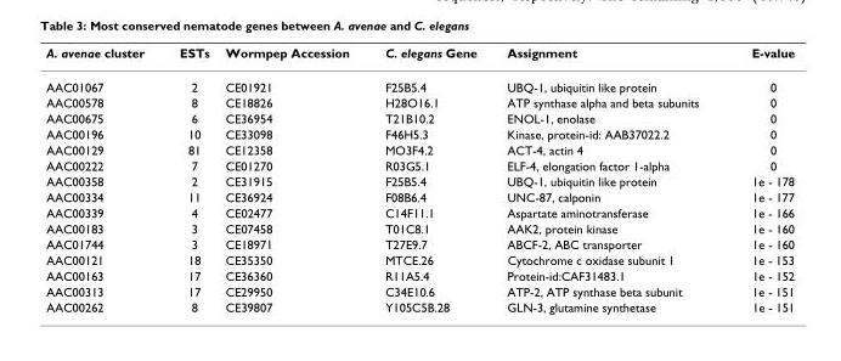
<table><thead><tr><td>A. avenae cluster</td><td>ESTs</td><td>Wormpep Accession</td><td>C. elegans Gene</td><td>Assignment</td><td>E-value</td></tr></thead><tbody><tr><td>AAC01067</td><td>2</td><td>CE01921</td><td>F25B5.4</td><td>UBQ-1, ubiquitin like protein</td><td>0</td></tr><tr><td>AAC00578</td><td>8</td><td>CE18826</td><td>H28O16.1</td><td>ATP synthase alpha and beta subunits</td><td>0</td></tr><tr><td>AAC00675</td><td>6</td><td>CE36954</td><td>T21B10.2</td><td>ENOL-1, enolase</td><td>0</td></tr><tr><td>AAC00196</td><td>10</td><td>CE33098</td><td>F46H5.3</td><td>Kinase, protein-id: AAB37022.2</td><td>0</td></tr><tr><td>AAC00129</td><td>81</td><td>CE12358</td><td>MO3F4.2</td><td>ACT-4, actin 4</td><td>0</td></tr><tr><td>AAC00222</td><td>7</td><td>CE01270</td><td>R03G5.1</td><td>ELF-4, elongation factor 1-alpha</td><td>0</td></tr><tr><td>AAC00358</td><td>2</td><td>CE31915</td><td>F25B5.4</td><td>UBQ-1, ubiquitin like protein</td><td>1e - 178</td></tr><tr><td>AAC00334</td><td>11</td><td>CE36924</td><td>F08B6.4</td><td>UNC-87, calponin</td><td>1e - 177</td></tr><tr><td>AAC00339</td><td>4</td><td>CE02477</td><td>C14F11.1</td><td>Aspartate aminotransferase</td><td>1e - 166</td></tr><tr><td>AAC00183</td><td>3</td><td>CE07458</td><td>T01C8.1</td><td>AAK2, protein kinase</td><td>1e - 160</td></tr><tr><td>AAC01744</td><td>3</td><td>CE18971</td><td>T27E9.7</td><td>ABCF-2, ABC transporter</td><td>1e - 160</td></tr><tr><td>AAC00121</td><td>18</td><td>CE35350</td><td>MTCE.26</td><td>Cytochrome c oxidase subunit 1</td><td>1e - 153</td></tr><tr><td>AAC00163</td><td>17</td><td>CE36360</td><td>R11A5.4</td><td>Protein-id:CAF31483.1</td><td>1e - 152</td></tr><tr><td>AAC00313</td><td>17</td><td>CE29950</td><td>C34E10.6</td><td>ATP-2, ATP synthase beta subunit</td><td>1e - 151</td></tr><tr><td>AAC00262</td><td>8</td><td>CE39807</td><td>Y105C5B.28</td><td>GLN-3, glutamine synthetase</td><td>1e - 151</td></tr></tbody></table>